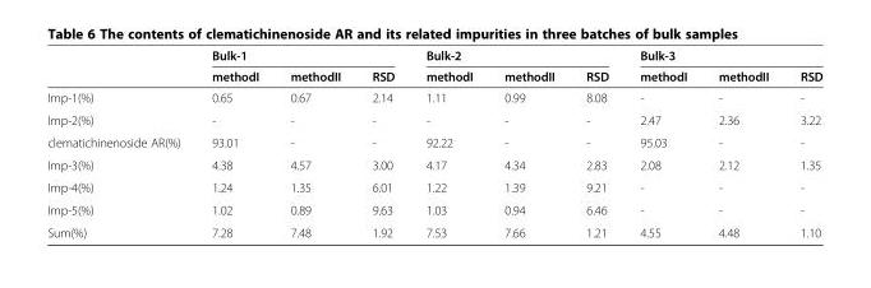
<table><thead><tr><td rowspan="2"></td><td colspan="3">Bulk-1</td><td colspan="3">Bulk-2</td><td colspan="3">Bulk-3</td></tr><tr><td>methodI</td><td>methodII</td><td>RSD</td><td>methodI</td><td>methodII</td><td>RSD</td><td>methodI</td><td>methodII</td><td>RSD</td></tr></thead><tbody><tr><td>Imp-1(%)</td><td>0.65</td><td>0.67</td><td>2.14</td><td>1.11</td><td>0.99</td><td>8.08</td><td>-</td><td>-</td><td>-</td></tr><tr><td>Imp-2(%)</td><td>-</td><td>-</td><td>-</td><td>-</td><td>-</td><td>-</td><td>2.47</td><td>2.36</td><td>3.22</td></tr><tr><td>clematichinenoside AR(%)</td><td>93.01</td><td>-</td><td>-</td><td>92.22</td><td>-</td><td>-</td><td>95.03</td><td>-</td><td>-</td></tr><tr><td>Imp-3(%)</td><td>4.38</td><td>4.57</td><td>3.00</td><td>4.17</td><td>4.34</td><td>2.83</td><td>2.08</td><td>2.12</td><td>1.35</td></tr><tr><td>Imp-4(%)</td><td>1.24</td><td>1.35</td><td>6.01</td><td>1.22</td><td>1.39</td><td>9.21</td><td>-</td><td>-</td><td>-</td></tr><tr><td>Imp-5(%)</td><td>1.02</td><td>0.89</td><td>9.63</td><td>1.03</td><td>0.94</td><td>6.46</td><td>-</td><td>-</td><td>-</td></tr><tr><td>Sum(%)</td><td>7.28</td><td>7.48</td><td>1.92</td><td>7.53</td><td>7.66</td><td>1.21</td><td>4.55</td><td>4.48</td><td>1.10</td></tr></tbody></table>